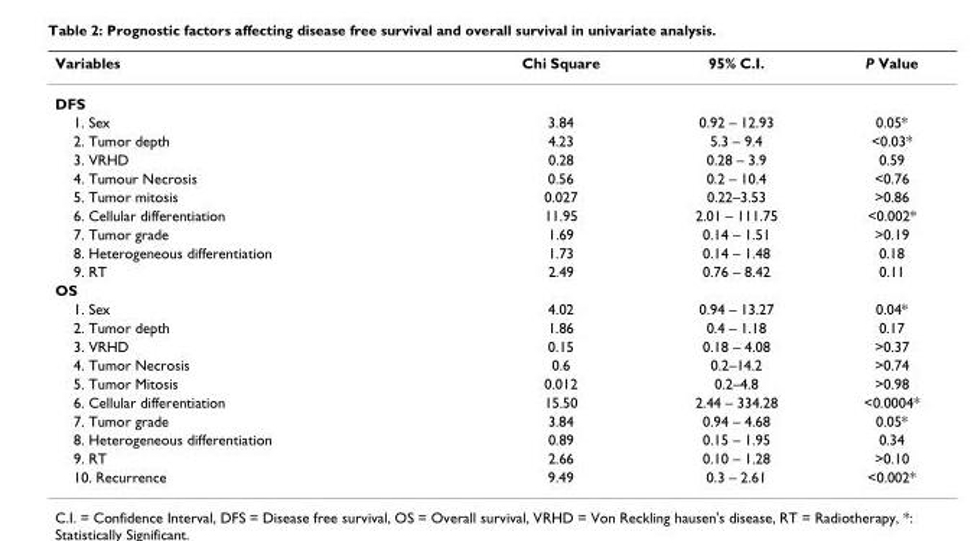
<table><thead><tr><td>Variables</td><td>Chi Square</td><td>95% C.I.</td><td>P Value</td></tr></thead><tbody><tr><td colspan="4">DFS</td></tr><tr><td>1. Sex</td><td>3.84</td><td>0.92 – 12.93</td><td>0.05*</td></tr><tr><td>2. Tumor depth</td><td>4.23</td><td>5.3 – 9.4</td><td>&lt;0.03*</td></tr><tr><td>3. VRHD</td><td>0.28</td><td>0.28 – 3.9</td><td>0.59</td></tr><tr><td>4. Tumour Necrosis</td><td>0.56</td><td>0.2 – 10.4</td><td>&lt;0.76</td></tr><tr><td>5. Tumor mitosis</td><td>0.027</td><td>0.22–3.53</td><td>&gt;0.86</td></tr><tr><td>6. Cellular differentiation</td><td>11.95</td><td>2.01 – 111.75</td><td>&lt;0.002*</td></tr><tr><td>7. Tumor grade</td><td>1.69</td><td>0.14 – 1.51</td><td>&gt;0.19</td></tr><tr><td>8. Heterogeneous differentiation</td><td>1.73</td><td>0.14 – 1.48</td><td>0.18</td></tr><tr><td>9. RT</td><td>2.49</td><td>0.76 – 8.42</td><td>0.11</td></tr><tr><td colspan="4">OS</td></tr><tr><td>1. Sex</td><td>4.02</td><td>0.94 – 13.27</td><td>0.04*</td></tr><tr><td>2. Tumor depth</td><td>1.86</td><td>0.4 – 1.18</td><td>0.17</td></tr><tr><td>3. VRHD</td><td>0.15</td><td>0.18 – 4.08</td><td>&gt;0.37</td></tr><tr><td>4. Tumor Necrosis</td><td>0.6</td><td>0.2–14.2</td><td>&gt;0.74</td></tr><tr><td>5. Tumor Mitosis</td><td>0.012</td><td>0.2–4.8</td><td>&gt;0.98</td></tr><tr><td>6. Cellular differentiation</td><td>15.50</td><td>2.44 – 334.28</td><td>&lt;0.0004*</td></tr><tr><td>7. Tumor grade</td><td>3.84</td><td>0.94 – 4.68</td><td>0.05*</td></tr><tr><td>8. Heterogeneous differentiation</td><td>0.89</td><td>0.15 – 1.95</td><td>0.34</td></tr><tr><td>9. RT</td><td>2.66</td><td>0.10 – 1.28</td><td>&gt;0.10</td></tr><tr><td>10. Recurrence</td><td>9.49</td><td>0.3 – 2.61</td><td>&lt;0.002*</td></tr></tbody></table>